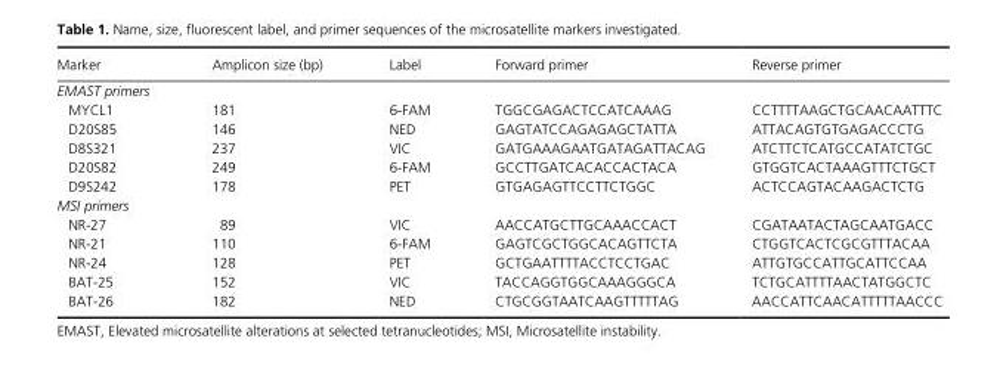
<table><thead><tr><td>Marker</td><td>Amplicon size (bp)</td><td>Label</td><td>Forward primer</td><td>Reverse primer</td></tr></thead><tbody><tr><td colspan="5">EMAST primers</td></tr><tr><td>MYCL1</td><td>181</td><td>6- FAM</td><td>TGGCGAGACTCCATCAAAG</td><td>CCTTTTAAGCTGCAACAATTTC</td></tr><tr><td>D20S85</td><td>146</td><td>NED</td><td>GAGTATCCAGAGAGCTATTA</td><td>ATTACAGTGTGAGACCCTG</td></tr><tr><td>D8S321</td><td>237</td><td>VIC</td><td>GATGAAAGAATGATAGATTACAG</td><td>ATCTTCTCATGCCATATCTGC</td></tr><tr><td>D20S82</td><td>249</td><td>6- FAM</td><td>GCCTTGATCACACCACTACA</td><td>GTGGTCACTAAAGTTTCTGCT</td></tr><tr><td>D9S242</td><td>178</td><td>PET</td><td>GTGAGAGTTCCTTCTGGC</td><td>ACTCCAGTACAAGACTCTG</td></tr><tr><td colspan="5">MSI primers</td></tr><tr><td>NR- 27</td><td>89</td><td>VIC</td><td>AACCATGCTTGCAAACCACT</td><td>CGATAATACTAGCAATGACC</td></tr><tr><td>NR- 21</td><td>110</td><td>6- FAM</td><td>GAGTCGCTGGCACAGTTCTA</td><td>CTGGTCACTCGCGTTTACAA</td></tr><tr><td>NR- 24</td><td>128</td><td>PET</td><td>GCTGAATTTTACCTCCTGAC</td><td>ATTGTGCCATTGCATTCCAA</td></tr><tr><td>BAT- 25</td><td>152</td><td>VIC</td><td>TACCAGGTGGCAAAGGGCA</td><td>TCTGCATTTTAACTATGGCTC</td></tr><tr><td>BAT- 26</td><td>182</td><td>NED</td><td>CTGCGGTAATCAAGTTTTTAG</td><td>AACCATTCAACATTTTTAACCC</td></tr></tbody></table>